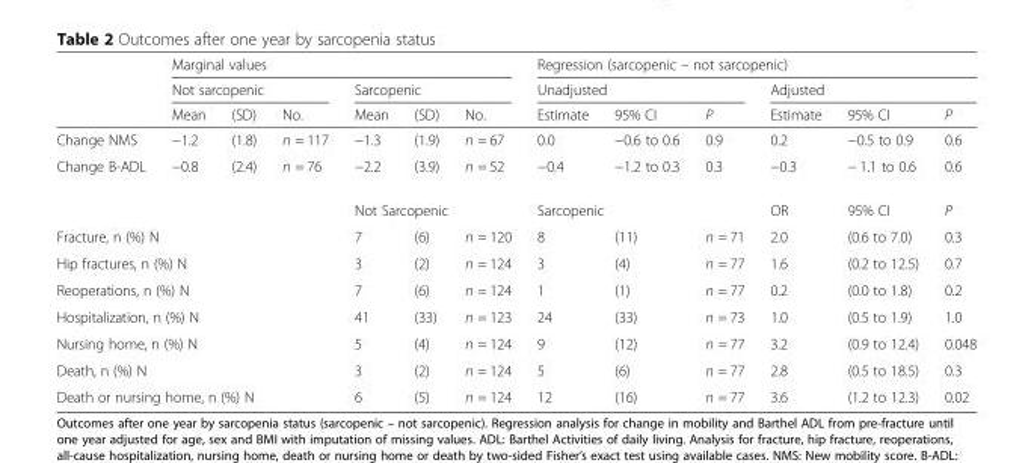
<table><thead><tr><td rowspan="3"></td><td colspan="6">Marginal values</td><td colspan="6">Regression (sarcopenic – not sarcopenic)</td></tr><tr><td colspan="3">Not sarcopenic</td><td colspan="3">Sarcopenic</td><td colspan="3">Unadjusted</td><td colspan="3">Adjusted</td></tr><tr><td>Mean</td><td>(SD)</td><td>No.</td><td>Mean</td><td>(SD)</td><td>No.</td><td>Estimate</td><td>95% CI</td><td>P</td><td>Estimate</td><td>95% CI</td><td>P</td></tr></thead><tbody><tr><td>Change NMS</td><td>−1.2</td><td>(1.8)</td><td>n = 117</td><td>−1.3</td><td>(1.9)</td><td>n = 67</td><td>0.0</td><td>−0.6 to 0.6</td><td>0.9</td><td>0.2</td><td>−0.5 to 0.9</td><td>0.6</td></tr><tr><td>Change B-ADL</td><td>−0.8</td><td>(2.4)</td><td>n = 76</td><td>−2.2</td><td>(3.9)</td><td>n = 52</td><td>−0.4</td><td>−1.2 to 0.3</td><td>0.3</td><td>−0.3</td><td>− 1.1 to 0.6</td><td>0.6</td></tr><tr><td colspan="4"></td><td colspan="3">Not Sarcopenic</td><td colspan="3">Sarcopenic</td><td>OR</td><td>95% CI</td><td>P</td></tr><tr><td colspan="4">Fracture, n (%) N</td><td>7</td><td>(6)</td><td>n = 120</td><td>8</td><td>(11)</td><td>n = 71</td><td>2.0</td><td>(0.6 to 7.0)</td><td>0.3</td></tr><tr><td colspan="4">Hip fractures, n (%) N</td><td>3</td><td>(2)</td><td>n = 124</td><td>3</td><td>(4)</td><td>n = 77</td><td>1.6</td><td>(0.2 to 12.5)</td><td>0.7</td></tr><tr><td colspan="4">Reoperations, n (%) N</td><td>7</td><td>(6)</td><td>n = 124</td><td>1</td><td>(1)</td><td>n = 77</td><td>0.2</td><td>(0.0 to 1.8)</td><td>0.2</td></tr><tr><td colspan="4">Hospitalization, n (%) N</td><td>41</td><td>(33)</td><td>n = 123</td><td>24</td><td>(33)</td><td>n = 73</td><td>1.0</td><td>(0.5 to 1.9)</td><td>1.0</td></tr><tr><td colspan="4">Nursing home, n (%) N</td><td>5</td><td>(4)</td><td>n = 124</td><td>9</td><td>(12)</td><td>n = 77</td><td>3.2</td><td>(0.9 to 12.4)</td><td>0.048</td></tr><tr><td colspan="4">Death, n (%) N</td><td>3</td><td>(2)</td><td>n = 124</td><td>5</td><td>(6)</td><td>n = 77</td><td>2.8</td><td>(0.5 to 18.5)</td><td>0.3</td></tr><tr><td colspan="4">Death or nursing home, n (%) N</td><td>6</td><td>(5)</td><td>n = 124</td><td>12</td><td>(16)</td><td>n = 77</td><td>3.6</td><td>(1.2 to 12.3)</td><td>0.02</td></tr></tbody></table>